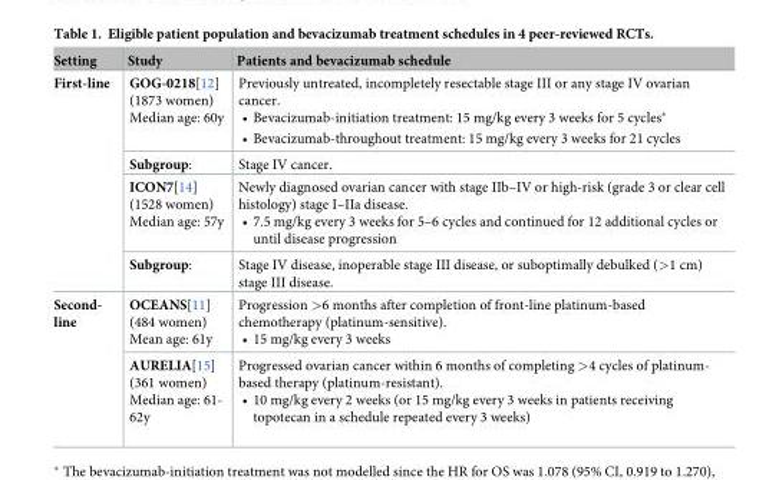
<table><thead><tr><td>Setting</td><td>Study</td><td>Patients and bevacizumab schedule</td></tr></thead><tbody><tr><td rowspan="4">First-line</td><td>GOG-0218[12] (1873 women) Median age: 60y</td><td>Previously untreated, incompletely resectable stage III or any stage IV ovarian cancer. • Bevacizumab-initiation treatment: 15 mg/kg every 3 weeks for 5 cycles� • Bevacizumab-throughout treatment: 15 mg/kg every 3 weeks for 21 cycles</td></tr><tr><td>Subgroup:</td><td>Stage IV cancer.</td></tr><tr><td>ICON7[14] (1528 women) Median age: 57y</td><td>Newly diagnosed ovarian cancer with stage IIb–IV or high-risk (grade 3 or clear cell histology) stage I–IIa disease. • 7.5 mg/kg every 3 weeks for 5–6 cycles and continued for 12 additional cycles or until disease progression</td></tr><tr><td>Subgroup:</td><td>Stage IV disease, inoperable stage III disease, or suboptimally debulked (&gt;1 cm) stage III disease.</td></tr><tr><td rowspan="2">Second- line</td><td>OCEANS[11] (484 women) Mean age: 61y</td><td>Progression &gt;6 months after completion of front-line platinum-based chemotherapy (platinum-sensitive). • 15 mg/kg every 3 weeks</td></tr><tr><td>AURELIA[15] (361 women) Median age: 61- 62y</td><td>Progressed ovarian cancer within 6 months of completing &gt;4 cycles of platinum- based therapy (platinum-resistant). • 10 mg/kg every 2 weeks (or 15 mg/kg every 3 weeks in patients receiving topotecan in a schedule repeated every 3 weeks)</td></tr></tbody></table>